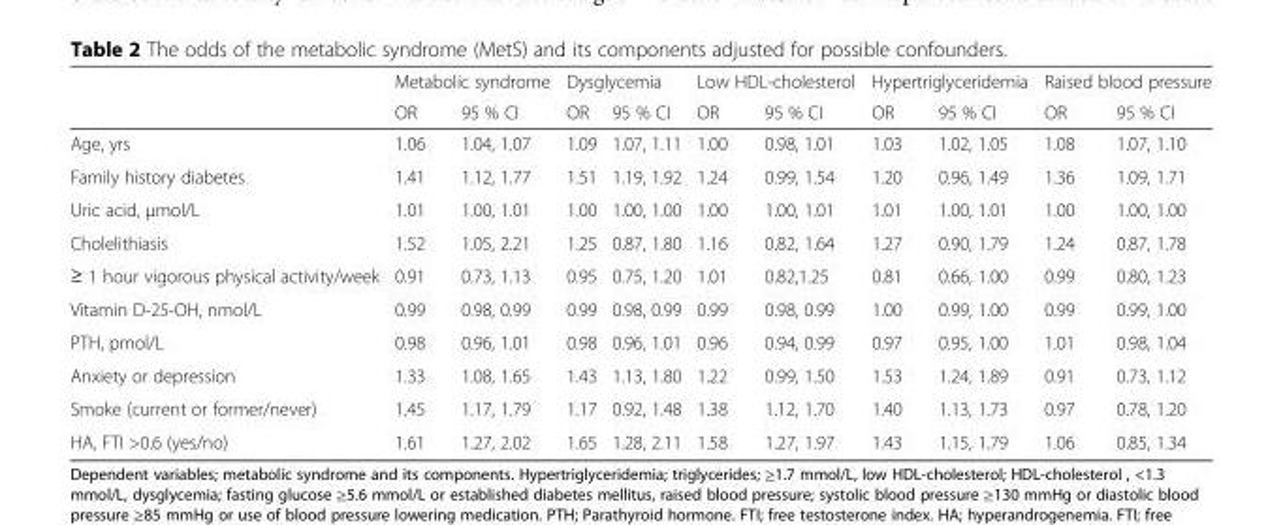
<table><thead><tr><td rowspan="2"></td><td colspan="2">Metabolic syndrome</td><td colspan="2">Dysglycemia</td><td colspan="2">Low HDL-cholesterol</td><td colspan="2">Hypertriglyceridemia</td><td colspan="2">Raised blood pressure</td></tr><tr><td>OR</td><td>95 % CI</td><td>OR</td><td>95 % CI</td><td>OR</td><td>95 % CI</td><td>OR</td><td>95 % CI</td><td>OR</td><td>95 % CI</td></tr></thead><tbody><tr><td>Age, yrs</td><td>1.06</td><td>1.04, 1.07</td><td>1.09</td><td>1.07, 1.11</td><td>1.00</td><td>0.98, 1.01</td><td>1.03</td><td>1.02, 1.05</td><td>1.08</td><td>1.07, 1.10</td></tr><tr><td>Family history diabetes</td><td>1.41</td><td>1.12, 1.77</td><td>1.51</td><td>1.19, 1.92</td><td>1.24</td><td>0.99, 1.54</td><td>1.20</td><td>0.96, 1.49</td><td>1.36</td><td>1.09, 1.71</td></tr><tr><td>Uric acid, μmol/L</td><td>1.01</td><td>1.00, 1.01</td><td>1.00</td><td>1.00, 1.00</td><td>1.00</td><td>1.00, 1.01</td><td>1.01</td><td>1.00, 1.01</td><td>1.00</td><td>1.00, 1.00</td></tr><tr><td>Cholelithiasis</td><td>1.52</td><td>1.05, 2.21</td><td>1.25</td><td>0.87, 1.80</td><td>1.16</td><td>0.82, 1.64</td><td>1.27</td><td>0.90, 1.79</td><td>1.24</td><td>0.87, 1.78</td></tr><tr><td>≥ 1 hour vigorous physical activity/week</td><td>0.91</td><td>0.73, 1.13</td><td>0.95</td><td>0.75, 1.20</td><td>1.01</td><td>0.82,1.25</td><td>0.81</td><td>0.66, 1.00</td><td>0.99</td><td>0.80, 1.23</td></tr><tr><td>Vitamin D-25-OH, nmol/L</td><td>0.99</td><td>0.98, 0.99</td><td>0.99</td><td>0.98, 0.99</td><td>0.99</td><td>0.98, 0.99</td><td>1.00</td><td>0.99, 1.00</td><td>0.99</td><td>0.99, 1.00</td></tr><tr><td>PTH, pmol/L</td><td>0.98</td><td>0.96, 1.01</td><td>0.98</td><td>0.96, 1.01</td><td>0.96</td><td>0.94, 0.99</td><td>0.97</td><td>0.95, 1.00</td><td>1.01</td><td>0.98, 1.04</td></tr><tr><td>Anxiety or depression</td><td>1.33</td><td>1.08, 1.65</td><td>1.43</td><td>1.13, 1.80</td><td>1.22</td><td>0.99, 1.50</td><td>1.53</td><td>1.24, 1.89</td><td>0.91</td><td>0.73, 1.12</td></tr><tr><td>Smoke (current or former/never)</td><td>1.45</td><td>1.17, 1.79</td><td>1.17</td><td>0.92, 1.48</td><td>1.38</td><td>1.12, 1.70</td><td>1.40</td><td>1.13, 1.73</td><td>0.97</td><td>0.78, 1.20</td></tr><tr><td>HA, FTI &gt;0.6 (yes/no)</td><td>1.61</td><td>1.27, 2.02</td><td>1.65</td><td>1.28, 2.11</td><td>1.58</td><td>1.27, 1.97</td><td>1.43</td><td>1.15, 1.79</td><td>1.06</td><td>0.85, 1.34</td></tr></tbody></table>